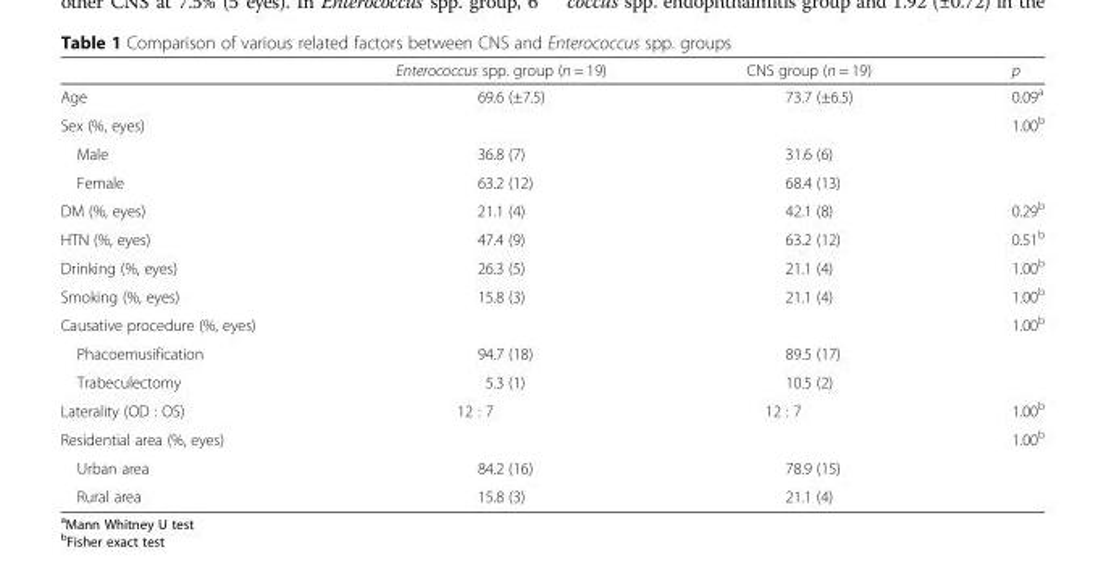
<table><thead><tr><td></td><td>Enterococcus spp. group (n = 19)</td><td>CNS group (n = 19)</td><td>p</td></tr></thead><tbody><tr><td>Age</td><td>69.6 (±7.5)</td><td>73.7 (±6.5)</td><td>0.09<sup>a</sup></td></tr><tr><td>Sex (%, eyes)</td><td></td><td></td><td>1.00<sup>b</sup></td></tr><tr><td>Male</td><td>36.8 (7)</td><td>31.6 (6)</td><td></td></tr><tr><td>Female</td><td>63.2 (12)</td><td>68.4 (13)</td><td></td></tr><tr><td>DM (%, eyes)</td><td>21.1 (4)</td><td>42.1 (8)</td><td>0.29<sup>b</sup></td></tr><tr><td>HTN (%, eyes)</td><td>47.4 (9)</td><td>63.2 (12)</td><td>0.51<sup>b</sup></td></tr><tr><td>Drinking (%, eyes)</td><td>26.3 (5)</td><td>21.1 (4)</td><td>1.00<sup>b</sup></td></tr><tr><td>Smoking (%, eyes)</td><td>15.8 (3)</td><td>21.1 (4)</td><td>1.00<sup>b</sup></td></tr><tr><td>Causative procedure (%, eyes)</td><td></td><td></td><td>1.00<sup>b</sup></td></tr><tr><td>Phacoemusification</td><td>94.7 (18)</td><td>89.5 (17)</td><td></td></tr><tr><td>Trabeculectomy</td><td>5.3 (1)</td><td>10.5 (2)</td><td></td></tr><tr><td>Laterality (OD : OS)</td><td>12 : 7</td><td>12 : 7</td><td>1.00<sup>b</sup></td></tr><tr><td>Residential area (%, eyes)</td><td></td><td></td><td>1.00<sup>b</sup></td></tr><tr><td>Urban area</td><td>84.2 (16)</td><td>78.9 (15)</td><td></td></tr><tr><td>Rural area</td><td>15.8 (3)</td><td>21.1 (4)</td><td></td></tr></tbody></table>